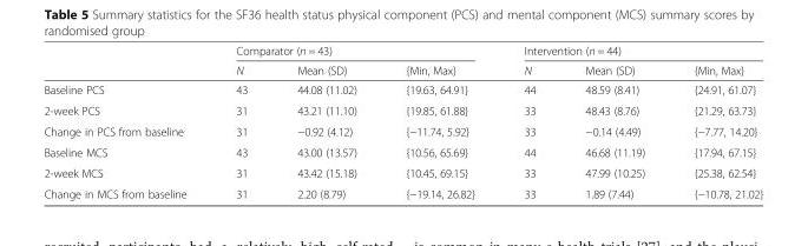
<table><thead><tr><td rowspan="2"></td><td colspan="3">Comparator (n = 43)</td><td colspan="3">Intervention (n = 44)</td></tr><tr><td>N</td><td>Mean (SD)</td><td>{Min, Max}</td><td>N</td><td>Mean (SD)</td><td>{Min, Max}</td></tr></thead><tbody><tr><td>Baseline PCS</td><td>43</td><td>44.08 (11.02)</td><td>{19.63, 64.91}</td><td>44</td><td>48.59 (8.41)</td><td>{24.91, 61.07}</td></tr><tr><td>2-week PCS</td><td>31</td><td>43.21 (11.10)</td><td>{19.85, 61.88}</td><td>33</td><td>48.43 (8.76)</td><td>{21.29, 63.73}</td></tr><tr><td>Change in PCS from baseline</td><td>31</td><td>−0.92 (4.12)</td><td>{−11.74, 5.92}</td><td>33</td><td>−0.14 (4.49)</td><td>{−7.77, 14.20}</td></tr><tr><td>Baseline MCS</td><td>43</td><td>43.00 (13.57)</td><td>{10.56, 65.69}</td><td>44</td><td>46.68 (11.19)</td><td>{17.94, 67.15}</td></tr><tr><td>2-week MCS</td><td>31</td><td>43.42 (15.18)</td><td>{10.45, 69.15}</td><td>33</td><td>47.99 (10.25)</td><td>{25.38, 62.54}</td></tr><tr><td>Change in MCS from baseline</td><td>31</td><td>2.20 (8.79)</td><td>{−19.14, 26.82}</td><td>33</td><td>1.89 (7.44)</td><td>{−10.78, 21.02}</td></tr></tbody></table>